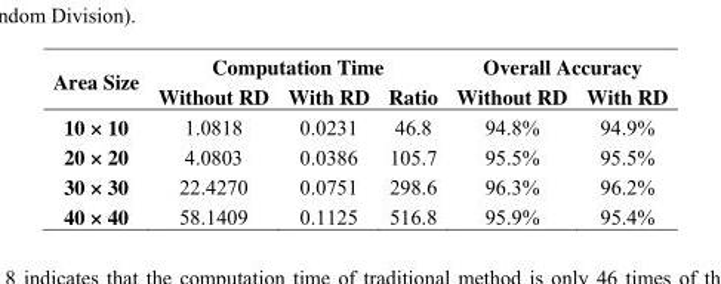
<table><thead><tr><td rowspan="2">Area Size</td><td colspan="3">Computation Time</td><td colspan="2">Overall Accuracy</td></tr><tr><td>Without RD</td><td>With RD</td><td>Ratio</td><td>Without RD</td><td>With RD</td></tr></thead><tbody><tr><td>10 × 10</td><td>1.0818</td><td>0.0231</td><td>46.8</td><td>94.8%</td><td>94.9%</td></tr><tr><td>20 × 20</td><td>4.0803</td><td>0.0386</td><td>105.7</td><td>95.5%</td><td>95.5%</td></tr><tr><td>30 × 30</td><td>22.4270</td><td>0.0751</td><td>298.6</td><td>96.3%</td><td>96.2%</td></tr><tr><td>40 × 40</td><td>58.1409</td><td>0.1125</td><td>516.8</td><td>95.9%</td><td>95.4%</td></tr></tbody></table>